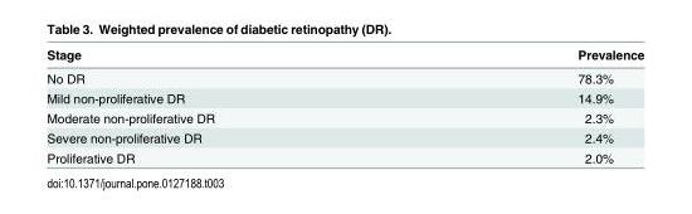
<table><thead><tr><td>Stage</td><td>Prevalence</td></tr></thead><tbody><tr><td>No DR</td><td>78.3%</td></tr><tr><td>Mild non-proliferative DR</td><td>14.9%</td></tr><tr><td>Moderate non-proliferative DR</td><td>2.3%</td></tr><tr><td>Severe non-proliferative DR</td><td>2.4%</td></tr><tr><td>Proliferative DR</td><td>2.0%</td></tr></tbody></table>